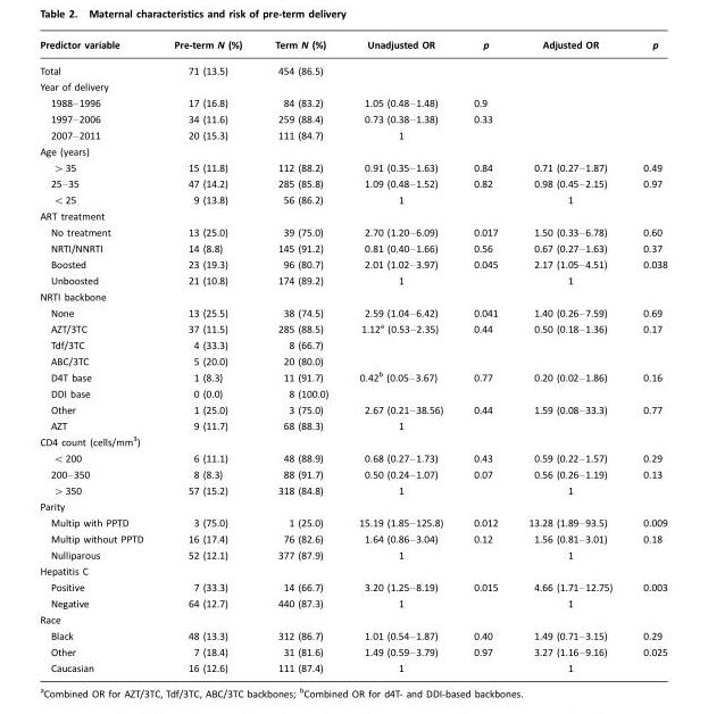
<table><thead><tr><td>Predictor variable</td><td>Pre-term N (%)</td><td>Term N (%)</td><td>Unadjusted OR</td><td>p</td><td>Adjusted OR</td><td>p</td></tr></thead><tbody><tr><td>Total</td><td>71 (13.5)</td><td>454 (86.5)</td><td></td><td></td><td></td><td></td></tr><tr><td colspan="7">Year of delivery</td></tr><tr><td>1988–1996</td><td>17 (16.8)</td><td>84 (83.2)</td><td>1.05 (0.48–1.48)</td><td>0.9</td><td></td><td></td></tr><tr><td>1997–2006</td><td>34 (11.6)</td><td>259 (88.4)</td><td>0.73 (0.38–1.38)</td><td>0.33</td><td></td><td></td></tr><tr><td>2007–2011</td><td>20 (15.3)</td><td>111 (84.7)</td><td>1</td><td></td><td></td><td></td></tr><tr><td colspan="7">Age (years)</td></tr><tr><td>&gt;35</td><td>15 (11.8)</td><td>112 (88.2)</td><td>0.91 (0.35–1.63)</td><td>0.84</td><td>0.71 (0.27–1.87)</td><td>0.49</td></tr><tr><td>25–35</td><td>47 (14.2)</td><td>285 (85.8)</td><td>1.09 (0.48–1.52)</td><td>0.82</td><td>0.98 (0.45–2.15)</td><td>0.97</td></tr><tr><td>&lt;25</td><td>9 (13.8)</td><td>56 (86.2)</td><td>1</td><td></td><td>1</td><td></td></tr><tr><td colspan="7">ART treatment</td></tr><tr><td>No treatment</td><td>13 (25.0)</td><td>39 (75.0)</td><td>2.70 (1.20–6.09)</td><td>0.017</td><td>1.50 (0.33–6.78)</td><td>0.60</td></tr><tr><td>NRTI/NNRTI</td><td>14 (8.8)</td><td>145 (91.2)</td><td>0.81 (0.40–1.66)</td><td>0.56</td><td>0.67 (0.27–1.63)</td><td>0.37</td></tr><tr><td>Boosted</td><td>23 (19.3)</td><td>96 (80.7)</td><td>2.01 (1.02–3.97)</td><td>0.045</td><td>2.17 (1.05–4.51)</td><td>0.038</td></tr><tr><td>Unboosted</td><td>21 (10.8)</td><td>174 (89.2)</td><td>1</td><td></td><td>1</td><td></td></tr><tr><td colspan="7">NRTI backbone</td></tr><tr><td>None</td><td>13 (25.5)</td><td>38 (74.5)</td><td>2.59 (1.04–6.42)</td><td>0.041</td><td>1.40 (0.26–7.59)</td><td>0.69</td></tr><tr><td>AZT/3TC</td><td>37 (11.5)</td><td>285 (88.5)</td><td>1.12<sup>a</sup> (0.53–2.35)</td><td>0.44</td><td>0.50 (0.18–1.36)</td><td>0.17</td></tr><tr><td>Tdf/3TC</td><td>4 (33.3)</td><td>8 (66.7)</td><td></td><td></td><td></td><td></td></tr><tr><td>ABC/3TC</td><td>5 (20.0)</td><td>20 (80.0)</td><td></td><td></td><td></td><td></td></tr><tr><td>D4T base</td><td>1 (8.3)</td><td>11 (91.7)</td><td>0.42<sup>b</sup> (0.05–3.67)</td><td>0.77</td><td>0.20 (0.02–1.86)</td><td>0.16</td></tr><tr><td>DDI base</td><td>0 (0.0)</td><td>8 (100.0)</td><td></td><td></td><td></td><td></td></tr><tr><td>Other</td><td>1 (25.0)</td><td>3 (75.0)</td><td>2.67 (0.21–38.56)</td><td>0.44</td><td>1.59 (0.08–33.3)</td><td>0.77</td></tr><tr><td>AZT</td><td>9 (11.7)</td><td>68 (88.3)</td><td>1</td><td></td><td></td><td></td></tr><tr><td colspan="7">CD4 count (cells/mm<sup>3</sup>)</td></tr><tr><td>&lt;200</td><td>6 (11.1)</td><td>48 (88.9)</td><td>0.68 (0.27–1.73)</td><td>0.43</td><td>0.59 (0.22–1.57)</td><td>0.29</td></tr><tr><td>200–350</td><td>8 (8.3)</td><td>88 (91.7)</td><td>0.50 (0.24–1.07)</td><td>0.07</td><td>0.56 (0.26–1.19)</td><td>0.13</td></tr><tr><td>&gt;350</td><td>57 (15.2)</td><td>318 (84.8)</td><td>1</td><td></td><td>1</td><td></td></tr><tr><td colspan="7">Parity</td></tr><tr><td>Multip with PPTD</td><td>3 (75.0)</td><td>1 (25.0)</td><td>15.19 (1.85–125.8)</td><td>0.012</td><td>13.28 (1.89–93.5)</td><td>0.009</td></tr><tr><td>Multip without PPTD</td><td>16 (17.4)</td><td>76 (82.6)</td><td>1.64 (0.86–3.04)</td><td>0.12</td><td>1.56 (0.81–3.01)</td><td>0.18</td></tr><tr><td>Nulliparous</td><td>52 (12.1)</td><td>377 (87.9)</td><td>1</td><td></td><td>1</td><td></td></tr><tr><td colspan="7">Hepatitis C</td></tr><tr><td>Positive</td><td>7 (33.3)</td><td>14 (66.7)</td><td>3.20 (1.25–8.19)</td><td>0.015</td><td>4.66 (1.71–12.75)</td><td>0.003</td></tr><tr><td>Negative</td><td>64 (12.7)</td><td>440 (87.3)</td><td>1</td><td></td><td>1</td><td></td></tr><tr><td colspan="7">Race</td></tr><tr><td>Black</td><td>48 (13.3)</td><td>312 (86.7)</td><td>1.01 (0.54–1.87)</td><td>0.40</td><td>1.49 (0.71–3.15)</td><td>0.29</td></tr><tr><td>Other</td><td>7 (18.4)</td><td>31 (81.6)</td><td>1.49 (0.59–3.79)</td><td>0.97</td><td>3.27 (1.16–9.16)</td><td>0.025</td></tr><tr><td>Caucasian</td><td>16 (12.6)</td><td>111 (87.4)</td><td>1</td><td></td><td>1</td><td></td></tr></tbody></table>